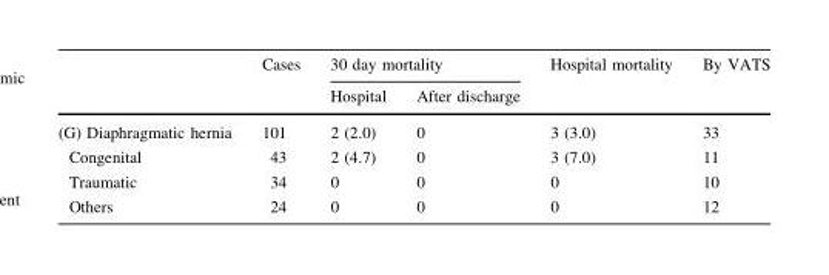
<table><thead><tr><td rowspan="2"></td><td rowspan="2">Cases</td><td colspan="2">30 day mortality</td><td rowspan="2">Hospital mortality</td><td rowspan="2">By VATS</td></tr><tr><td>Hospital</td><td>After discharge</td></tr></thead><tbody><tr><td>(G) Diaphragmatic hernia</td><td>101</td><td>2 (2.0)</td><td>0</td><td>3 (3.0)</td><td>33</td></tr><tr><td>Congenital</td><td>43</td><td>2 (4.7)</td><td>0</td><td>3 (7.0)</td><td>11</td></tr><tr><td>Traumatic</td><td>34</td><td>0</td><td>0</td><td>0</td><td>10</td></tr><tr><td>Others</td><td>24</td><td>0</td><td>0</td><td>0</td><td>12</td></tr></tbody></table>